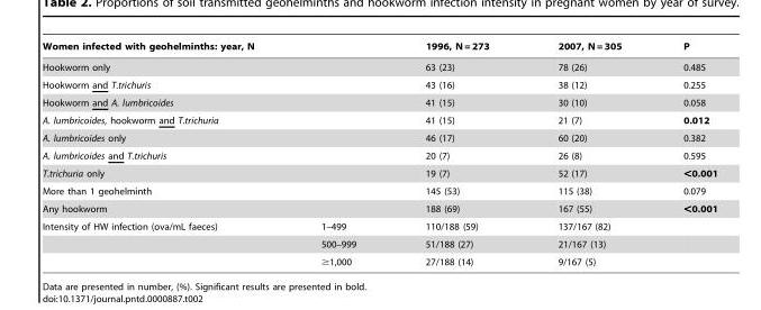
<table><thead><tr><td colspan="2">Women infected with geohelminths: year, N</td><td>1996, N = 273</td><td>2007, N = 305</td><td>P</td></tr></thead><tbody><tr><td colspan="2">Hookworm only</td><td>63 (23)</td><td>78 (26)</td><td>0.485</td></tr><tr><td colspan="2">Hookworm and T.trichuris</td><td>43 (16)</td><td>38 (12)</td><td>0.255</td></tr><tr><td colspan="2">Hookworm and A. lumbricoides</td><td>41 (15)</td><td>30 (10)</td><td>0.058</td></tr><tr><td colspan="2">A. lumbricoides, hookworm and T.trichuria</td><td>41 (15)</td><td>21 (7)</td><td>0.012</td></tr><tr><td colspan="2">A. lumbricoides only</td><td>46 (17)</td><td>60 (20)</td><td>0.382</td></tr><tr><td colspan="2">A. lumbricoides and T.trichuris</td><td>20 (7)</td><td>26 (8)</td><td>0.595</td></tr><tr><td colspan="2">T.trichuria only</td><td>19 (7)</td><td>52 (17)</td><td>&lt;0.001</td></tr><tr><td colspan="2">More than 1 geohelminth</td><td>145 (53)</td><td>115 (38)</td><td>0.079</td></tr><tr><td colspan="2">Any hookworm</td><td>188 (69)</td><td>167 (55)</td><td>&lt;0.001</td></tr><tr><td rowspan="3">Intensity of HW infection (ova/mL faeces)</td><td>1–499</td><td>110/188 (59)</td><td>137/167 (82)</td><td></td></tr><tr><td>500–999</td><td>51/188 (27)</td><td>21/167 (13)</td><td></td></tr><tr><td>≥1,000</td><td>27/188 (14)</td><td>9/167 (5)</td><td></td></tr></tbody></table>